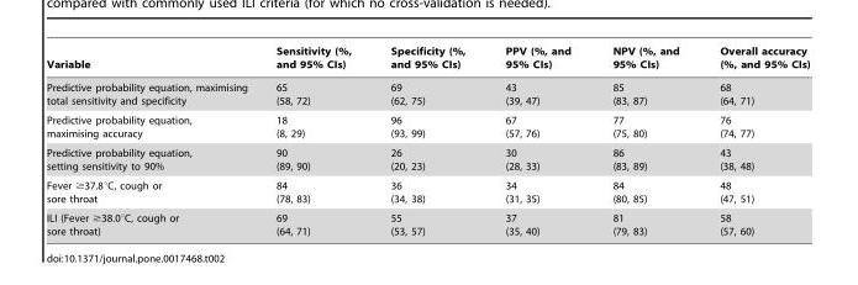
<table><thead><tr><td>Variable</td><td>Sensitivity (%, and 95% CIs)</td><td>Specificity (%, and 95% CIs)</td><td>PPV (%, and 95% CIs)</td><td>NPV (%, and 95% CIs)</td><td>Overall accuracy (%, and 95% CIs)</td></tr></thead><tbody><tr><td>Predictive probability equation, maximising total sensitivity and specificity</td><td>65 (58, 72)</td><td>69 (62, 75)</td><td>43 (39, 47)</td><td>85 (83, 87)</td><td>68 (64, 71)</td></tr><tr><td>Predictive probability equation, maximising accuracy</td><td>18 (8, 29)</td><td>96 (93, 99)</td><td>67 (57, 76)</td><td>77 (75, 80)</td><td>76 (74, 77)</td></tr><tr><td>Predictive probability equation, setting sensitivity to 90%</td><td>90 (89, 90)</td><td>26 (20, 23)</td><td>30 (28, 33)</td><td>86 (83, 89)</td><td>43 (38, 48)</td></tr><tr><td>Fever ≥37.8°C, cough or sore throat</td><td>84 (78, 83)</td><td>36 (34, 38)</td><td>34 (31, 35)</td><td>84 (80, 85)</td><td>48 (47, 51)</td></tr><tr><td>ILI (Fever ≥38.0°C, cough or sore throat)</td><td>69 (64, 71)</td><td>55 (53, 57)</td><td>37 (35, 40)</td><td>81 (79, 83)</td><td>58 (57, 60)</td></tr></tbody></table>